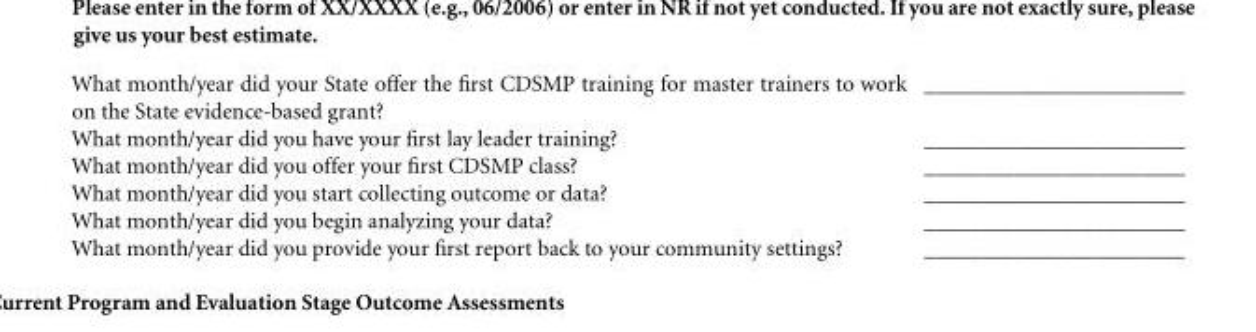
<table><tbody><tr><td>What month/year did your State offer the first CDSMP training for master trainers to work on the State evidence-based grant?</td><td>_______________________</td></tr><tr><td>What month/year did you have your first lay leader training?</td><td>_______________________</td></tr><tr><td>What month/year did you offer your first CDSMP class?</td><td>_______________________</td></tr><tr><td>What month/year did you start collecting outcome or data?</td><td>_______________________</td></tr><tr><td>What month/year did you begin analyzing your data?</td><td>_______________________</td></tr><tr><td>What month/year did you provide your first report back to your community settings?</td><td>_______________________</td></tr></tbody></table>